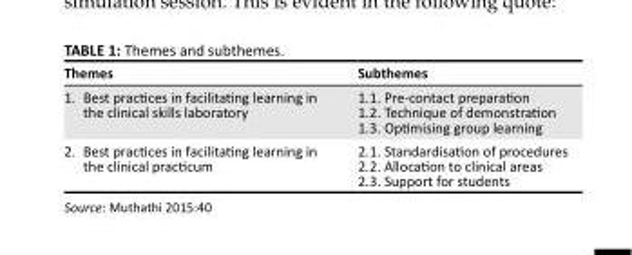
<table><thead><tr><td>Themes</td><td>Subthemes</td></tr></thead><tbody><tr><td>1. Best practices in facilitating learning in the clinical skills laboratory</td><td>1.1. Pre-contact preparation 1.2. Technique of demonstration 1.3. Optimising group learning</td></tr><tr><td>2. Best practices in facilitating learning in the clinical practicum</td><td>2.1. Standardisation of procedures 2.2. Allocation to clinical areas 2.3. Support for students</td></tr></tbody></table>